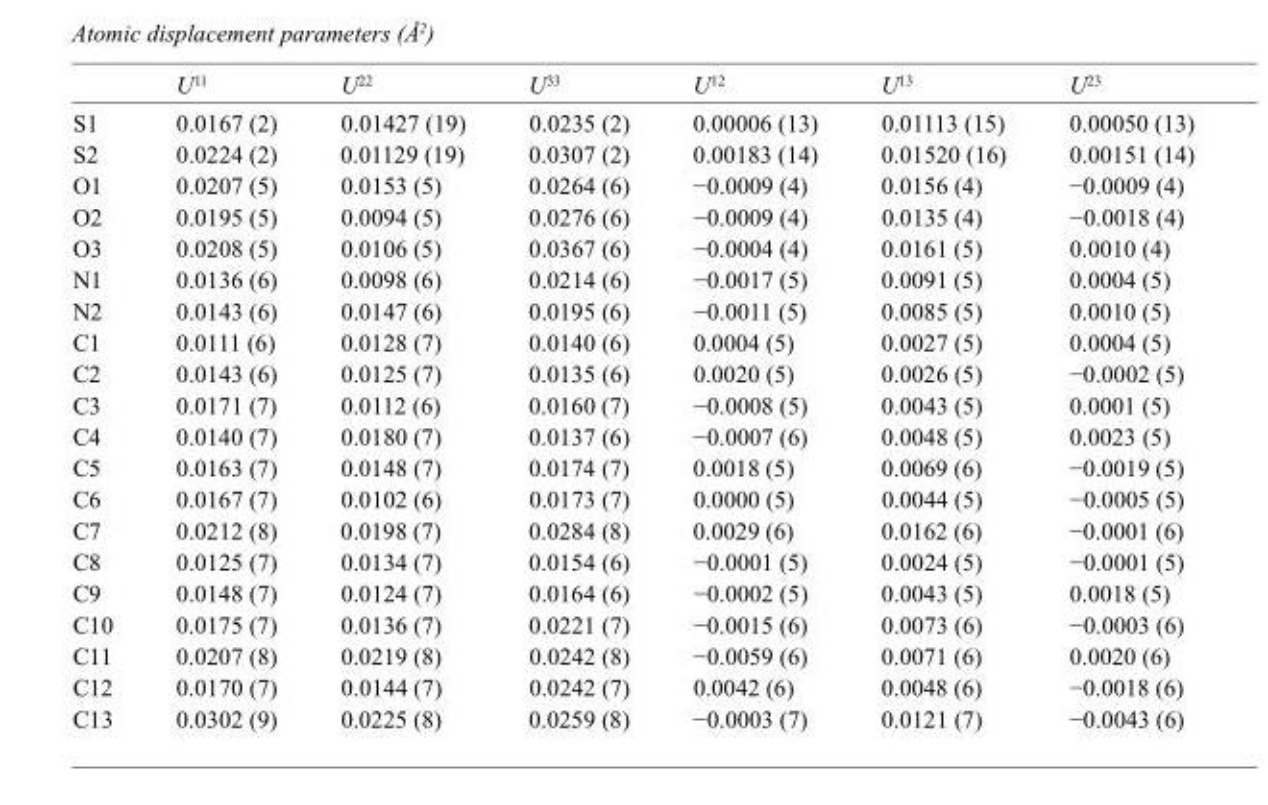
<table><thead><tr><td></td><td>U<sup>11</sup></td><td>U<sup>22</sup></td><td>U<sup>33</sup></td><td>U<sup>12</sup></td><td>U<sup>13</sup></td><td>U<sup>23</sup></td></tr></thead><tbody><tr><td>S1</td><td>0.0167 (2)</td><td>0.01427 (19)</td><td>0.0235 (2)</td><td>0.00006 (13)</td><td>0.01113 (15)</td><td>0.00050 (13)</td></tr><tr><td>S2</td><td>0.0224 (2)</td><td>0.01129 (19)</td><td>0.0307 (2)</td><td>0.00183 (14)</td><td>0.01520 (16)</td><td>0.00151 (14)</td></tr><tr><td>O1</td><td>0.0207 (5)</td><td>0.0153 (5)</td><td>0.0264 (6)</td><td>−0.0009 (4)</td><td>0.0156 (4)</td><td>−0.0009 (4)</td></tr><tr><td>O2</td><td>0.0195 (5)</td><td>0.0094 (5)</td><td>0.0276 (6)</td><td>−0.0009 (4)</td><td>0.0135 (4)</td><td>−0.0018 (4)</td></tr><tr><td>O3</td><td>0.0208 (5)</td><td>0.0106 (5)</td><td>0.0367 (6)</td><td>−0.0004 (4)</td><td>0.0161 (5)</td><td>0.0010 (4)</td></tr><tr><td>N1</td><td>0.0136 (6)</td><td>0.0098 (6)</td><td>0.0214 (6)</td><td>−0.0017 (5)</td><td>0.0091 (5)</td><td>0.0004 (5)</td></tr><tr><td>N2</td><td>0.0143 (6)</td><td>0.0147 (6)</td><td>0.0195 (6)</td><td>−0.0011 (5)</td><td>0.0085 (5)</td><td>0.0010 (5)</td></tr><tr><td>C1</td><td>0.0111 (6)</td><td>0.0128 (7)</td><td>0.0140 (6)</td><td>0.0004 (5)</td><td>0.0027 (5)</td><td>0.0004 (5)</td></tr><tr><td>C2</td><td>0.0143 (6)</td><td>0.0125 (7)</td><td>0.0135 (6)</td><td>0.0020 (5)</td><td>0.0026 (5)</td><td>−0.0002 (5)</td></tr><tr><td>C3</td><td>0.0171 (7)</td><td>0.0112 (6)</td><td>0.0160 (7)</td><td>−0.0008 (5)</td><td>0.0043 (5)</td><td>0.0001 (5)</td></tr><tr><td>C4</td><td>0.0140 (7)</td><td>0.0180 (7)</td><td>0.0137 (6)</td><td>−0.0007 (6)</td><td>0.0048 (5)</td><td>0.0023 (5)</td></tr><tr><td>C5</td><td>0.0163 (7)</td><td>0.0148 (7)</td><td>0.0174 (7)</td><td>0.0018 (5)</td><td>0.0069 (6)</td><td>−0.0019 (5)</td></tr><tr><td>C6</td><td>0.0167 (7)</td><td>0.0102 (6)</td><td>0.0173 (7)</td><td>0.0000 (5)</td><td>0.0044 (5)</td><td>−0.0005 (5)</td></tr><tr><td>C7</td><td>0.0212 (8)</td><td>0.0198 (7)</td><td>0.0284 (8)</td><td>0.0029 (6)</td><td>0.0162 (6)</td><td>−0.0001 (6)</td></tr><tr><td>C8</td><td>0.0125 (7)</td><td>0.0134 (7)</td><td>0.0154 (6)</td><td>−0.0001 (5)</td><td>0.0024 (5)</td><td>−0.0001 (5)</td></tr><tr><td>C9</td><td>0.0148 (7)</td><td>0.0124 (7)</td><td>0.0164 (6)</td><td>−0.0002 (5)</td><td>0.0043 (5)</td><td>0.0018 (5)</td></tr><tr><td>C10</td><td>0.0175 (7)</td><td>0.0136 (7)</td><td>0.0221 (7)</td><td>−0.0015 (6)</td><td>0.0073 (6)</td><td>−0.0003 (6)</td></tr><tr><td>C11</td><td>0.0207 (8)</td><td>0.0219 (8)</td><td>0.0242 (8)</td><td>−0.0059 (6)</td><td>0.0071 (6)</td><td>0.0020 (6)</td></tr><tr><td>C12</td><td>0.0170 (7)</td><td>0.0144 (7)</td><td>0.0242 (7)</td><td>0.0042 (6)</td><td>0.0048 (6)</td><td>−0.0018 (6)</td></tr><tr><td>C13</td><td>0.0302 (9)</td><td>0.0225 (8)</td><td>0.0259 (8)</td><td>−0.0003 (7)</td><td>0.0121 (7)</td><td>−0.0043 (6)</td></tr></tbody></table>